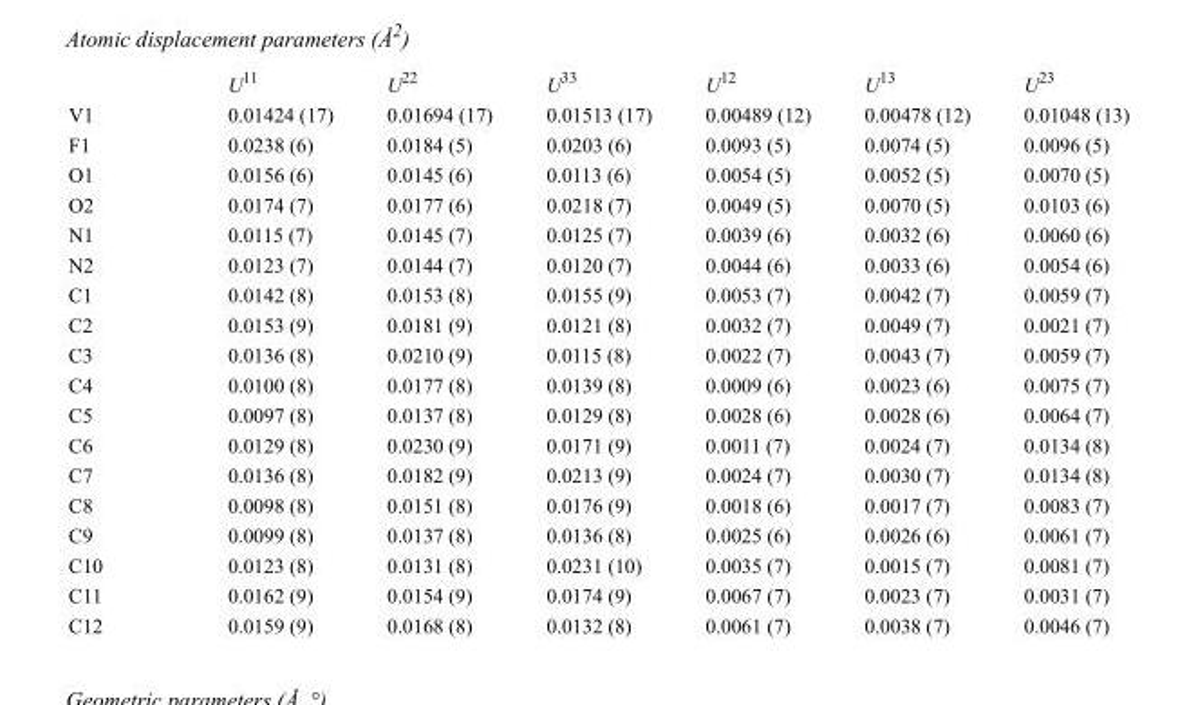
<table><thead><tr><td></td><td>U<sup>11</sup></td><td>U<sup>22</sup></td><td>U<sup>33</sup></td><td>U<sup>12</sup></td><td>U<sup>13</sup></td><td>U<sup>23</sup></td></tr></thead><tbody><tr><td>V1</td><td>0.01424 (17)</td><td>0.01694 (17)</td><td>0.01513 (17)</td><td>0.00489 (12)</td><td>0.00478 (12)</td><td>0.01048 (13)</td></tr><tr><td>F1</td><td>0.0238 (6)</td><td>0.0184 (5)</td><td>0.0203 (6)</td><td>0.0093 (5)</td><td>0.0074 (5)</td><td>0.0096 (5)</td></tr><tr><td>O1</td><td>0.0156 (6)</td><td>0.0145 (6)</td><td>0.0113 (6)</td><td>0.0054 (5)</td><td>0.0052 (5)</td><td>0.0070 (5)</td></tr><tr><td>O2</td><td>0.0174 (7)</td><td>0.0177 (6)</td><td>0.0218 (7)</td><td>0.0049 (5)</td><td>0.0070 (5)</td><td>0.0103 (6)</td></tr><tr><td>N1</td><td>0.0115 (7)</td><td>0.0145 (7)</td><td>0.0125 (7)</td><td>0.0039 (6)</td><td>0.0032 (6)</td><td>0.0060 (6)</td></tr><tr><td>N2</td><td>0.0123 (7)</td><td>0.0144 (7)</td><td>0.0120 (7)</td><td>0.0044 (6)</td><td>0.0033 (6)</td><td>0.0054 (6)</td></tr><tr><td>C1</td><td>0.0142 (8)</td><td>0.0153 (8)</td><td>0.0155 (9)</td><td>0.0053 (7)</td><td>0.0042 (7)</td><td>0.0059 (7)</td></tr><tr><td>C2</td><td>0.0153 (9)</td><td>0.0181 (9)</td><td>0.0121 (8)</td><td>0.0032 (7)</td><td>0.0049 (7)</td><td>0.0021 (7)</td></tr><tr><td>C3</td><td>0.0136 (8)</td><td>0.0210 (9)</td><td>0.0115 (8)</td><td>0.0022 (7)</td><td>0.0043 (7)</td><td>0.0059 (7)</td></tr><tr><td>C4</td><td>0.0100 (8)</td><td>0.0177 (8)</td><td>0.0139 (8)</td><td>0.0009 (6)</td><td>0.0023 (6)</td><td>0.0075 (7)</td></tr><tr><td>C5</td><td>0.0097 (8)</td><td>0.0137 (8)</td><td>0.0129 (8)</td><td>0.0028 (6)</td><td>0.0028 (6)</td><td>0.0064 (7)</td></tr><tr><td>C6</td><td>0.0129 (8)</td><td>0.0230 (9)</td><td>0.0171 (9)</td><td>0.0011 (7)</td><td>0.0024 (7)</td><td>0.0134 (8)</td></tr><tr><td>C7</td><td>0.0136 (8)</td><td>0.0182 (9)</td><td>0.0213 (9)</td><td>0.0024 (7)</td><td>0.0030 (7)</td><td>0.0134 (8)</td></tr><tr><td>C8</td><td>0.0098 (8)</td><td>0.0151 (8)</td><td>0.0176 (9)</td><td>0.0018 (6)</td><td>0.0017 (7)</td><td>0.0083 (7)</td></tr><tr><td>C9</td><td>0.0099 (8)</td><td>0.0137 (8)</td><td>0.0136 (8)</td><td>0.0025 (6)</td><td>0.0026 (6)</td><td>0.0061 (7)</td></tr><tr><td>C10</td><td>0.0123 (8)</td><td>0.0131 (8)</td><td>0.0231 (10)</td><td>0.0035 (7)</td><td>0.0015 (7)</td><td>0.0081 (7)</td></tr><tr><td>C11</td><td>0.0162 (9)</td><td>0.0154 (9)</td><td>0.0174 (9)</td><td>0.0067 (7)</td><td>0.0023 (7)</td><td>0.0031 (7)</td></tr><tr><td>C12</td><td>0.0159 (9)</td><td>0.0168 (8)</td><td>0.0132 (8)</td><td>0.0061 (7)</td><td>0.0038 (7)</td><td>0.0046 (7)</td></tr></tbody></table>